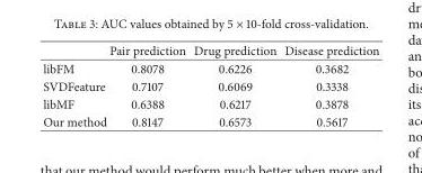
<table><thead><tr><td></td><td>Pair prediction</td><td>Drug prediction</td><td>Disease prediction</td></tr></thead><tbody><tr><td>libFM</td><td>0.8078</td><td>0.6226</td><td>0.3682</td></tr><tr><td>SVDFeature</td><td>0.7107</td><td>0.6069</td><td>0.3338</td></tr><tr><td>libMF</td><td>0.6388</td><td>0.6217</td><td>0.3878</td></tr><tr><td>Our method</td><td>0.8147</td><td>0.6573</td><td>0.5617</td></tr></tbody></table>